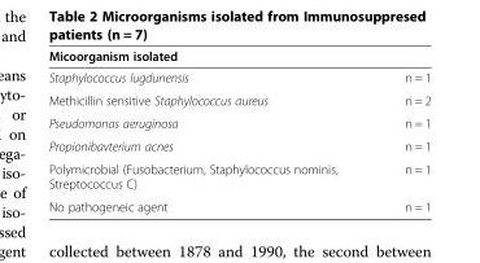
<table><thead><tr><td colspan="2">Micoorganism isolated</td></tr><tr><td>Staphylococcus lugdunensis</td><td>n = 1</td></tr></thead><tbody><tr><td>Methicillin sensitive Staphylococcus aureus</td><td>n = 2</td></tr><tr><td>Pseudomonas aeruginosa</td><td>n = 1</td></tr><tr><td>Propionibavterium acnes</td><td>n = 1</td></tr><tr><td>Polymicrobial (Fusobacterium, Staphylococcus nominis, Streptococcus C)</td><td>n = 1</td></tr><tr><td>No pathogeneic agent</td><td>n = 1</td></tr></tbody></table>